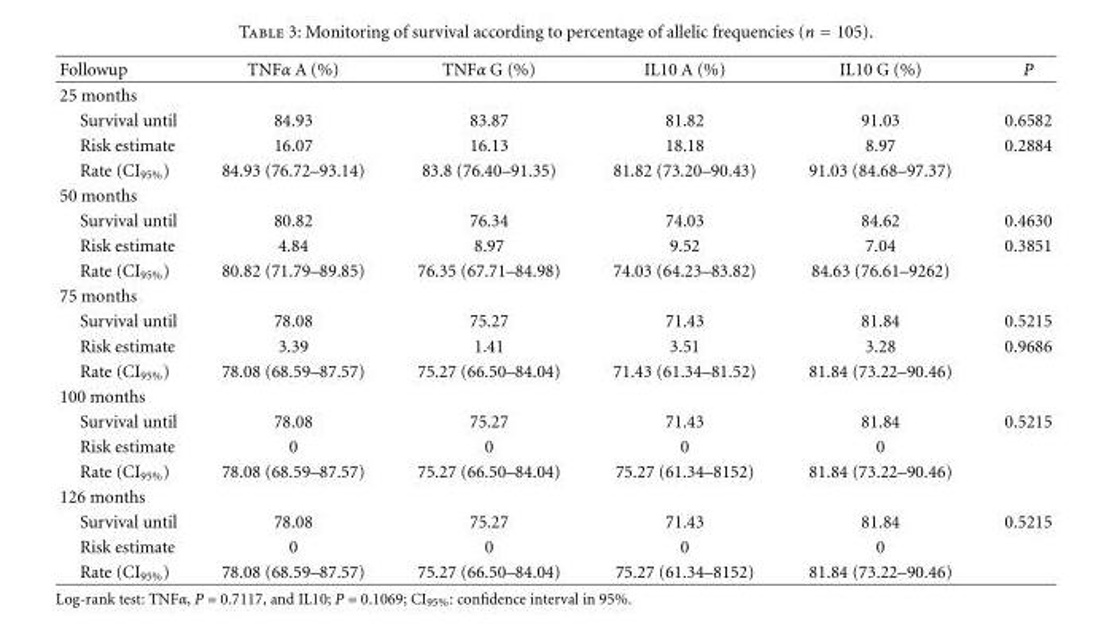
<table><thead><tr><td>Followup</td><td>TNFα A (%)</td><td>TNFα G (%)</td><td>IL10 A (%)</td><td>IL10 G (%)</td><td>P</td></tr></thead><tbody><tr><td colspan="6">25 months</td></tr><tr><td>Survival until</td><td>84.93</td><td>83.87</td><td>81.82</td><td>91.03</td><td>0.6582</td></tr><tr><td>Risk estimate</td><td>16.07</td><td>16.13</td><td>18.18</td><td>8.97</td><td>0.2884</td></tr><tr><td>Rate (CI<sub>95%</sub>)</td><td>84.93 (76.72–93.14)</td><td>83.8 (76.40–91.35)</td><td>81.82 (73.20–90.43)</td><td>91.03 (84.68–97.37)</td><td></td></tr><tr><td colspan="6">50 months</td></tr><tr><td>Survival until</td><td>80.82</td><td>76.34</td><td>74.03</td><td>84.62</td><td>0.4630</td></tr><tr><td>Risk estimate</td><td>4.84</td><td>8.97</td><td>9.52</td><td>7.04</td><td>0.3851</td></tr><tr><td>Rate (CI<sub>95%</sub>)</td><td>80.82 (71.79–89.85)</td><td>76.35 (67.71–84.98)</td><td>74.03 (64.23–83.82)</td><td>84.63 (76.61–9262)</td><td></td></tr><tr><td colspan="6">75 months</td></tr><tr><td>Survival until</td><td>78.08</td><td>75.27</td><td>71.43</td><td>81.84</td><td>0.5215</td></tr><tr><td>Risk estimate</td><td>3.39</td><td>1.41</td><td>3.51</td><td>3.28</td><td>0.9686</td></tr><tr><td>Rate (CI<sub>95%</sub>)</td><td>78.08 (68.59–87.57)</td><td>75.27 (66.50–84.04)</td><td>71.43 (61.34–81.52)</td><td>81.84 (73.22–90.46)</td><td></td></tr><tr><td colspan="6">100 months</td></tr><tr><td>Survival until</td><td>78.08</td><td>75.27</td><td>71.43</td><td>81.84</td><td>0.5215</td></tr><tr><td>Risk estimate</td><td>0</td><td>0</td><td>0</td><td>0</td><td></td></tr><tr><td>Rate (CI<sub>95%</sub>)</td><td>78.08 (68.59–87.57)</td><td>75.27 (66.50–84.04)</td><td>75.27 (61.34–8152)</td><td>81.84 (73.22–90.46)</td><td></td></tr><tr><td colspan="6">126 months</td></tr><tr><td>Survival until</td><td>78.08</td><td>75.27</td><td>71.43</td><td>81.84</td><td>0.5215</td></tr><tr><td>Risk estimate</td><td>0</td><td>0</td><td>0</td><td>0</td><td></td></tr><tr><td>Rate (CI<sub>95%</sub>)</td><td>78.08 (68.59–87.57)</td><td>75.27 (66.50–84.04)</td><td>75.27 (61.34–8152)</td><td>81.84 (73.22–90.46)</td><td></td></tr></tbody></table>